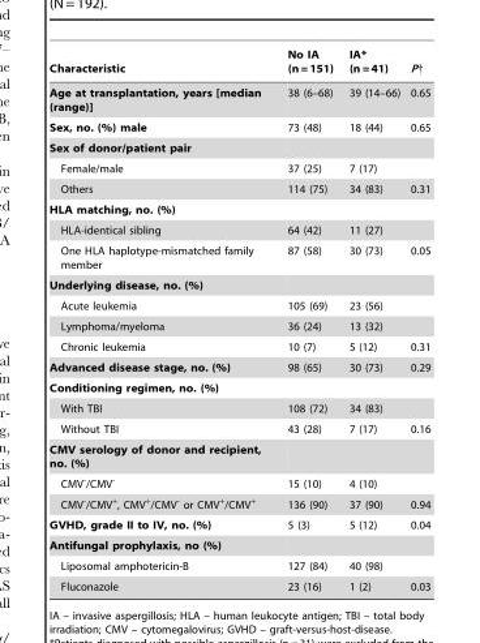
<table><thead><tr><td>Characteristic</td><td>No IA (n = 151)</td><td>IA* (n = 41)</td><td>P†</td></tr></thead><tbody><tr><td>Age at transplantation, years [median (range)]</td><td>38 (6–68)</td><td>39 (14–66)</td><td>0.65</td></tr><tr><td>Sex, no. (%) male</td><td>73 (48)</td><td>18 (44)</td><td>0.65</td></tr><tr><td colspan="4">Sex of donor/patient pair</td></tr><tr><td>Female/male</td><td>37 (25)</td><td>7 (17)</td><td></td></tr><tr><td>Others</td><td>114 (75)</td><td>34 (83)</td><td>0.31</td></tr><tr><td colspan="4">HLA matching, no. (%)</td></tr><tr><td>HLA-identical sibling</td><td>64 (42)</td><td>11 (27)</td><td></td></tr><tr><td>One HLA haplotype-mismatched family member</td><td>87 (58)</td><td>30 (73)</td><td>0.05</td></tr><tr><td colspan="4">Underlying disease, no. (%)</td></tr><tr><td>Acute leukemia</td><td>105 (69)</td><td>23 (56)</td><td></td></tr><tr><td>Lymphoma/myeloma</td><td>36 (24)</td><td>13 (32)</td><td></td></tr><tr><td>Chronic leukemia</td><td>10 (7)</td><td>5 (12)</td><td>0.31</td></tr><tr><td>Advanced disease stage, no. (%)</td><td>98 (65)</td><td>30 (73)</td><td>0.29</td></tr><tr><td colspan="4">Conditioning regimen, no. (%)</td></tr><tr><td>With TBI</td><td>108 (72)</td><td>34 (83)</td><td></td></tr><tr><td>Without TBI</td><td>43 (28)</td><td>7 (17)</td><td>0.16</td></tr><tr><td colspan="4">CMV serology of donor and recipient, no. (%)</td></tr><tr><td>CMV<sup>-</sup>/CMV<sup>-</sup></td><td>15 (10)</td><td>4 (10)</td><td></td></tr><tr><td>CMV<sup>-</sup>/CMV<sup>+</sup>, CMV<sup>+</sup>/CMV<sup>-</sup> or CMV<sup>+</sup>/CMV<sup>+</sup></td><td>136 (90)</td><td>37 (90)</td><td>0.94</td></tr><tr><td>GVHD, grade II to IV, no. (%)</td><td>5 (3)</td><td>5 (12)</td><td>0.04</td></tr><tr><td colspan="4">Antifungal prophylaxis, no (%)</td></tr><tr><td>Liposomal amphotericin-B</td><td>127 (84)</td><td>40 (98)</td><td></td></tr><tr><td>Fluconazole</td><td>23 (16)</td><td>1 (2)</td><td>0.03</td></tr></tbody></table>